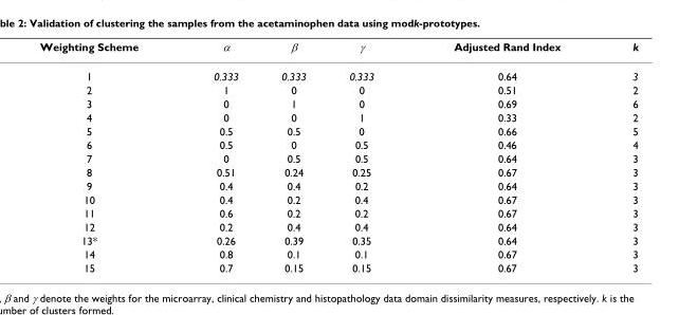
<table><thead><tr><td>Weighting Scheme</td><td>α</td><td>β</td><td>γ</td><td>Adjusted Rand Index</td><td>k</td></tr></thead><tbody><tr><td>1</td><td>0.333</td><td>0.333</td><td>0.333</td><td>0.64</td><td>3</td></tr><tr><td>2</td><td>1</td><td>0</td><td>0</td><td>0.51</td><td>2</td></tr><tr><td>3</td><td>0</td><td>1</td><td>0</td><td>0.69</td><td>6</td></tr><tr><td>4</td><td>0</td><td>0</td><td>1</td><td>0.33</td><td>2</td></tr><tr><td>5</td><td>0.5</td><td>0.5</td><td>0</td><td>0.66</td><td>5</td></tr><tr><td>6</td><td>0.5</td><td>0</td><td>0.5</td><td>0.46</td><td>4</td></tr><tr><td>7</td><td>0</td><td>0.5</td><td>0.5</td><td>0.64</td><td>3</td></tr><tr><td>8</td><td>0.51</td><td>0.24</td><td>0.25</td><td>0.67</td><td>3</td></tr><tr><td>9</td><td>0.4</td><td>0.4</td><td>0.2</td><td>0.64</td><td>3</td></tr><tr><td>10</td><td>0.4</td><td>0.2</td><td>0.4</td><td>0.67</td><td>3</td></tr><tr><td>11</td><td>0.6</td><td>0.2</td><td>0.2</td><td>0.67</td><td>3</td></tr><tr><td>12</td><td>0.2</td><td>0.4</td><td>0.4</td><td>0.64</td><td>3</td></tr><tr><td>13*</td><td>0.26</td><td>0.39</td><td>0.35</td><td>0.64</td><td>3</td></tr><tr><td>14</td><td>0.8</td><td>0.1</td><td>0.1</td><td>0.67</td><td>3</td></tr><tr><td>15</td><td>0.7</td><td>0.15</td><td>0.15</td><td>0.67</td><td>3</td></tr></tbody></table>